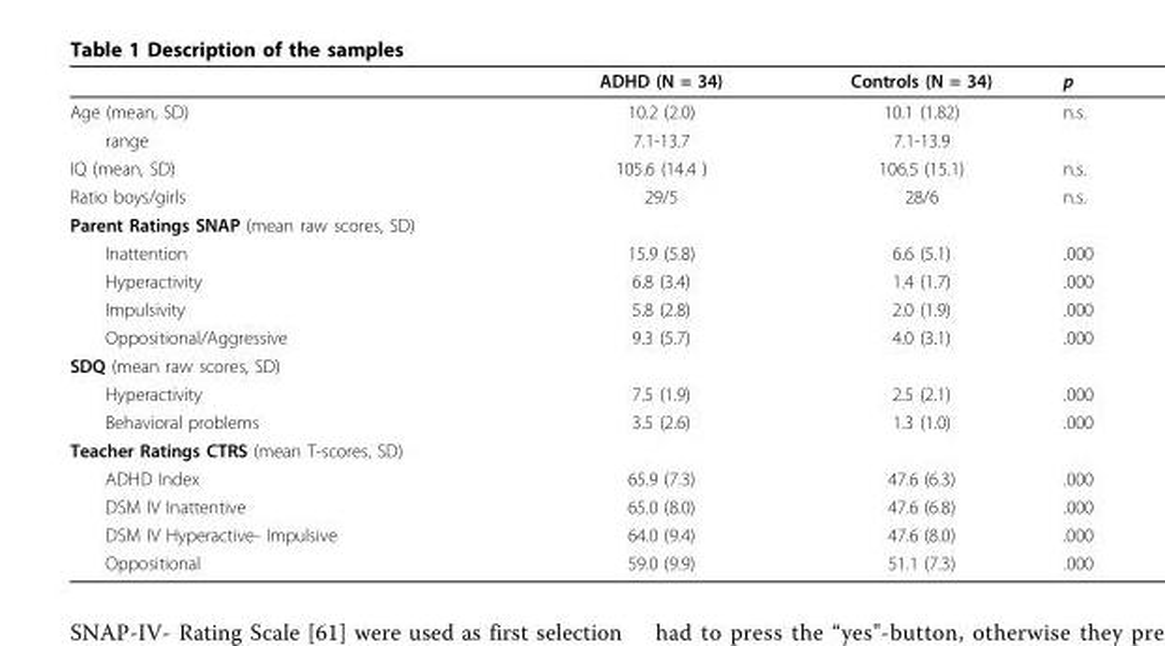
<table><thead><tr><td></td><td>ADHD (N = 34)</td><td>Controls (N = 34)</td><td>p</td></tr></thead><tbody><tr><td>Age (mean, SD)</td><td>10.2 (2.0)</td><td>10.1 (1.82)</td><td>n.s.</td></tr><tr><td>range</td><td>7.1-13.7</td><td>7.1-13.9</td><td></td></tr><tr><td>IQ (mean, SD)</td><td>105.6 (14.4 )</td><td>106.5 (15.1)</td><td>n.s.</td></tr><tr><td>Ratio boys/girls</td><td>29/5</td><td>28/6</td><td>n.s.</td></tr><tr><td colspan="4">Parent Ratings SNAP (mean raw scores, SD)</td></tr><tr><td>Inattention</td><td>15.9 (5.8)</td><td>6.6 (5.1)</td><td>.000</td></tr><tr><td>Hyperactivity</td><td>6.8 (3.4)</td><td>1.4 (1.7)</td><td>.000</td></tr><tr><td>Impulsivity</td><td>5.8 (2.8)</td><td>2.0 (1.9)</td><td>.000</td></tr><tr><td>Oppositional/Aggressive</td><td>9.3 (5.7)</td><td>4.0 (3.1)</td><td>.000</td></tr><tr><td colspan="4">SDQ (mean raw scores, SD)</td></tr><tr><td>Hyperactivity</td><td>7.5 (1.9)</td><td>2.5 (2.1)</td><td>.000</td></tr><tr><td>Behavioral problems</td><td>3.5 (2.6)</td><td>1.3 (1.0)</td><td>.000</td></tr><tr><td colspan="4">Teacher Ratings CTRS (mean T-scores, SD)</td></tr><tr><td>ADHD Index</td><td>65.9 (7.3)</td><td>47.6 (6.3)</td><td>.000</td></tr><tr><td>DSM IV Inattentive</td><td>65.0 (8.0)</td><td>47.6 (6.8)</td><td>.000</td></tr><tr><td>DSM IV Hyperactive- Impulsive</td><td>64.0 (9.4)</td><td>47.6 (8.0)</td><td>.000</td></tr><tr><td>Oppositional</td><td>59.0 (9.9)</td><td>51.1 (7.3)</td><td>.000</td></tr></tbody></table>